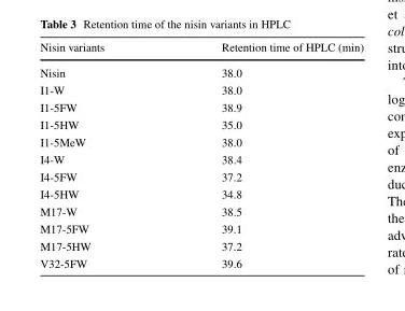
<table><thead><tr><td>Nisin variants</td><td>Retention time of HPLC (min)</td></tr></thead><tbody><tr><td>Nisin</td><td>38.0</td></tr><tr><td>I1-W</td><td>38.0</td></tr><tr><td>I1-5FW</td><td>38.9</td></tr><tr><td>I1-5HW</td><td>35.0</td></tr><tr><td>I1-5MeW</td><td>38.0</td></tr><tr><td>I4-W</td><td>38.4</td></tr><tr><td>I4-5FW</td><td>37.2</td></tr><tr><td>I4-5HW</td><td>34.8</td></tr><tr><td>M17-W</td><td>38.5</td></tr><tr><td>M17-5FW</td><td>39.1</td></tr><tr><td>M17-5HW</td><td>37.2</td></tr><tr><td>V32-5FW</td><td>39.6</td></tr></tbody></table>